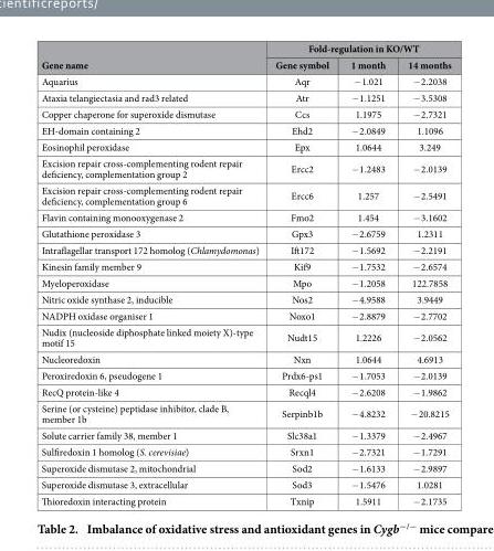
<table><thead><tr><td rowspan="2">Gene name</td><td colspan="3">Fold-regulation in KO/WT</td></tr><tr><td>Gene symbol</td><td>1 month</td><td>14 months</td></tr></thead><tbody><tr><td>Aquarius</td><td>Aqr</td><td>− 1.021</td><td>− 2.2038</td></tr><tr><td>Ataxia telangiectasia and rad3 related</td><td>Atr</td><td>− 1.1251</td><td>− 3.5308</td></tr><tr><td>Copper chaperone for superoxide dismutase</td><td>Ccs</td><td>1.1975</td><td>− 2.7321</td></tr><tr><td>EH-domain containing 2</td><td>Ehd2</td><td>− 2.0849</td><td>1.1096</td></tr><tr><td>Eosinophil peroxidase</td><td>Epx</td><td>1.0644</td><td>3.249</td></tr><tr><td>Excision repair cross-complementing rodent repair deficiency, complementation group 2</td><td>Ercc2</td><td>− 1.2483</td><td>− 2.0139</td></tr><tr><td>Excision repair cross-complementing rodent repair deficiency, complementation group 6</td><td>Ercc6</td><td>1.257</td><td>− 2.5491</td></tr><tr><td>Flavin containing monooxygenase 2</td><td>Fmo2</td><td>1.454</td><td>− 3.1602</td></tr><tr><td>Glutathione peroxidase 3</td><td>Gpx3</td><td>− 2.6759</td><td>1.2311</td></tr><tr><td>Intraflagellar transport 172 homolog (Chlamydomonas)</td><td>Ift172</td><td>− 1.5692</td><td>− 2.2191</td></tr><tr><td>Kinesin family member 9</td><td>Kif9</td><td>− 1.7532</td><td>− 2.6574</td></tr><tr><td>Myeloperoxidase</td><td>Mpo</td><td>− 1.2058</td><td>122.7858</td></tr><tr><td>Nitric oxide synthase 2, inducible</td><td>Nos2</td><td>− 4.9588</td><td>3.9449</td></tr><tr><td>NADPH oxidase organiser 1</td><td>Noxo1</td><td>− 2.8879</td><td>− 2.7702</td></tr><tr><td>Nudix (nucleoside diphosphate linked moiety X)-type motif 15</td><td>Nudt15</td><td>1.2226</td><td>− 2.0562</td></tr><tr><td>Nucleoredoxin</td><td>Nxn</td><td>1.0644</td><td>4.6913</td></tr><tr><td>Peroxiredoxin 6, pseudogene 1</td><td>Prdx6-ps1</td><td>− 1.7053</td><td>− 2.0139</td></tr><tr><td>RecQ protein-like 4</td><td>Recql4</td><td>− 2.6208</td><td>− 1.9862</td></tr><tr><td>Serine (or cysteine) peptidase inhibitor, clade B, member 1b</td><td>Serpinb1b</td><td>− 4.8232</td><td>− 20.8215</td></tr><tr><td>Solute carrier family 38, member 1</td><td>Slc38a1</td><td>− 1.3379</td><td>− 2.4967</td></tr><tr><td>Sulfiredoxin 1 homolog (S. cerevisiae)</td><td>Srxn1</td><td>− 2.7321</td><td>− 1.7291</td></tr><tr><td>Superoxide dismutase 2, mitochondrial</td><td>Sod2</td><td>− 1.6133</td><td>− 2.9897</td></tr><tr><td>Superoxide dismutase 3, extracellular</td><td>Sod3</td><td>− 1.5476</td><td>1.0281</td></tr><tr><td>Thioredoxin interacting protein</td><td>Txnip</td><td>1.5911</td><td>− 2.1735</td></tr></tbody></table>